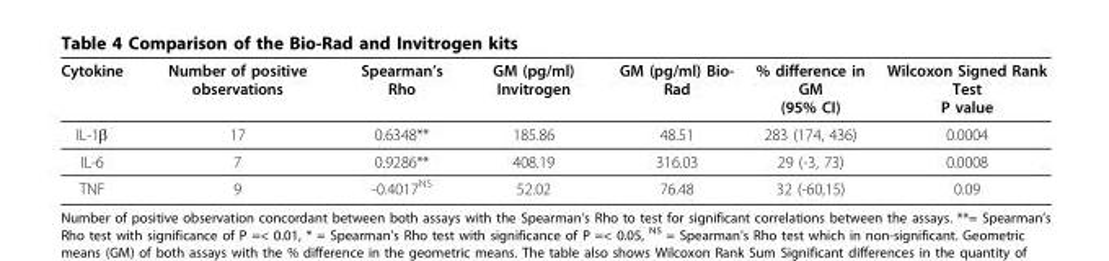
<table><thead><tr><td>Cytokine</td><td>Number of positive observations</td><td>Spearman’s Rho</td><td>GM (pg/ml) Invitrogen</td><td>GM (pg/ml) Bio- Rad</td><td>% difference in GM (95% CI)</td><td>Wilcoxon Signed Rank Test P value</td></tr></thead><tbody><tr><td>IL-1β</td><td>17</td><td>0.6348**</td><td>185.86</td><td>48.51</td><td>283 (174, 436)</td><td>0.0004</td></tr><tr><td>IL-6</td><td>7</td><td>0.9286**</td><td>408.19</td><td>316.03</td><td>29 (-3, 73)</td><td>0.0008</td></tr><tr><td>TNF</td><td>9</td><td>-0.4017<sup>NS</sup></td><td>52.02</td><td>76.48</td><td>32 (-60,15)</td><td>0.09</td></tr></tbody></table>